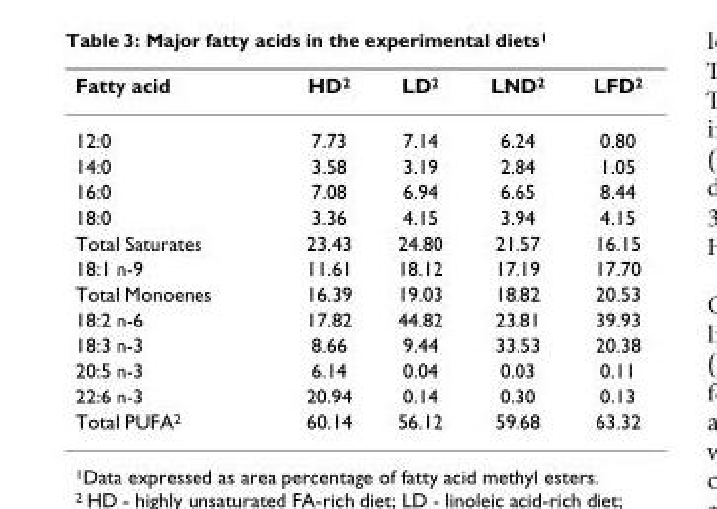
<table><thead><tr><td>Fatty acid</td><td>HD<sup>2</sup></td><td>LD<sup>2</sup></td><td>LND<sup>2</sup></td><td>LFD<sup>2</sup></td></tr></thead><tbody><tr><td>12:0</td><td>7.73</td><td>7.14</td><td>6.24</td><td>0.80</td></tr><tr><td>14:0</td><td>3.58</td><td>3.19</td><td>2.84</td><td>1.05</td></tr><tr><td>16:0</td><td>7.08</td><td>6.94</td><td>6.65</td><td>8.44</td></tr><tr><td>18:0</td><td>3.36</td><td>4.15</td><td>3.94</td><td>4.15</td></tr><tr><td>Total Saturates</td><td>23.43</td><td>24.80</td><td>21.57</td><td>16.15</td></tr><tr><td>18:1 n-9</td><td>11.61</td><td>18.12</td><td>17.19</td><td>17.70</td></tr><tr><td>Total Monoenes</td><td>16.39</td><td>19.03</td><td>18.82</td><td>20.53</td></tr><tr><td>18:2 n-6</td><td>17.82</td><td>44.82</td><td>23.81</td><td>39.93</td></tr><tr><td>18:3 n-3</td><td>8.66</td><td>9.44</td><td>33.53</td><td>20.38</td></tr><tr><td>20:5 n-3</td><td>6.14</td><td>0.04</td><td>0.03</td><td>0.11</td></tr><tr><td>22:6 n-3</td><td>20.94</td><td>0.14</td><td>0.30</td><td>0.13</td></tr><tr><td>Total PUFA<sup>2</sup></td><td>60.14</td><td>56.12</td><td>59.68</td><td>63.32</td></tr></tbody></table>